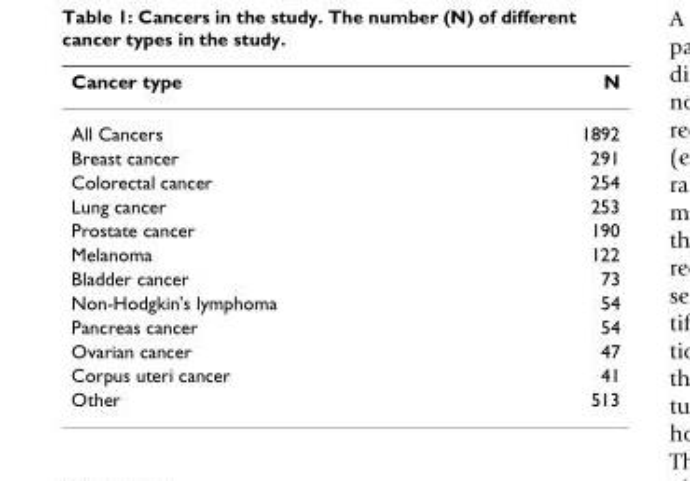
<table><thead><tr><td>Cancer type</td><td>N</td></tr></thead><tbody><tr><td>All Cancers</td><td>1892</td></tr><tr><td>Breast cancer</td><td>291</td></tr><tr><td>Colorectal cancer</td><td>254</td></tr><tr><td>Lung cancer</td><td>253</td></tr><tr><td>Prostate cancer</td><td>190</td></tr><tr><td>Melanoma</td><td>122</td></tr><tr><td>Bladder cancer</td><td>73</td></tr><tr><td>Non-Hodgkin&#x27;s lymphoma</td><td>54</td></tr><tr><td>Pancreas cancer</td><td>54</td></tr><tr><td>Ovarian cancer</td><td>47</td></tr><tr><td>Corpus uteri cancer</td><td>41</td></tr><tr><td>Other</td><td>513</td></tr></tbody></table>